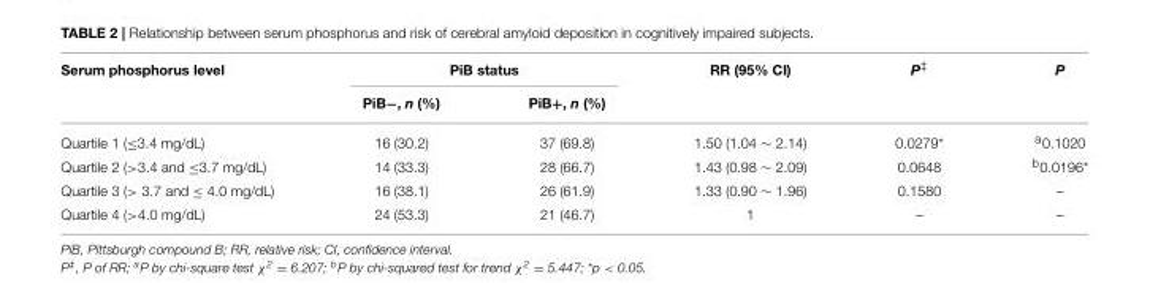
<table><thead><tr><td rowspan="2">Serum phosphorus level</td><td colspan="2">PiB status</td><td rowspan="2">RR (95% CI)</td><td rowspan="2">P<sup>‡</sup></td><td rowspan="2">P</td></tr><tr><td>PiB−, n (%)</td><td>PiB+, n (%)</td></tr></thead><tbody><tr><td>Quartile 1 (≤3.4 mg/dL)</td><td>16 (30.2)</td><td>37 (69.8)</td><td>1.50 (1.04 ∼ 2.14)</td><td>0.0279*</td><td><sup>a</sup>0.1020</td></tr><tr><td>Quartile 2 (&gt;3.4 and ≤3.7 mg/dL)</td><td>14 (33.3)</td><td>28 (66.7)</td><td>1.43 (0.98 ∼ 2.09)</td><td>0.0648</td><td><sup>b</sup>0.0196*</td></tr><tr><td>Quartile 3 (&gt; 3.7 and ≤ 4.0 mg/dL)</td><td>16 (38.1)</td><td>26 (61.9)</td><td>1.33 (0.90 ∼ 1.96)</td><td>0.1580</td><td>–</td></tr><tr><td>Quartile 4 (&gt;4.0 mg/dL)</td><td>24 (53.3)</td><td>21 (46.7)</td><td>1</td><td>–</td><td>–</td></tr></tbody></table>